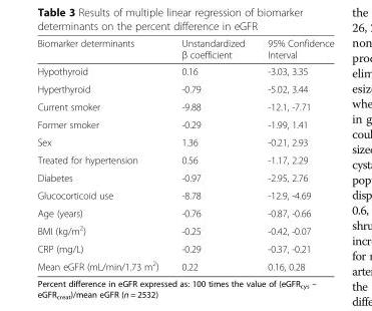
<table><thead><tr><td>Biomarker determinants</td><td>Unstandardized β coefficient</td><td>95% Confidence Interval</td></tr></thead><tbody><tr><td>Hypothyroid</td><td>0.16</td><td>-3.03, 3.35</td></tr><tr><td>Hyperthyroid</td><td>-0.79</td><td>-5.02, 3.44</td></tr><tr><td>Current smoker</td><td>-9.88</td><td>-12.1, -7.71</td></tr><tr><td>Former smoker</td><td>-0.29</td><td>-1.99, 1.41</td></tr><tr><td>Sex</td><td>1.36</td><td>-0.21, 2.93</td></tr><tr><td>Treated for hypertension</td><td>0.56</td><td>-1.17, 2.29</td></tr><tr><td>Diabetes</td><td>-0.97</td><td>-2.95, 2.76</td></tr><tr><td>Glucocorticoid use</td><td>-8.78</td><td>-12.9, -4.69</td></tr><tr><td>Age (years)</td><td>-0.76</td><td>-0.87, -0.66</td></tr><tr><td>BMI (kg/m<sup>2</sup>)</td><td>-0.25</td><td>-0.42, -0.07</td></tr><tr><td>CRP (mg/L)</td><td>-0.29</td><td>-0.37, -0.21</td></tr><tr><td>Mean eGFR (mL/min/1.73 m<sup>2</sup>)</td><td>0.22</td><td>0.16, 0.28</td></tr></tbody></table>